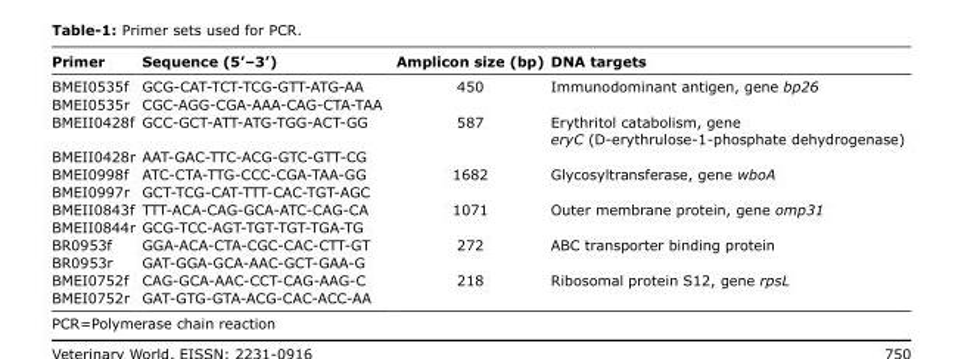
<table><thead><tr><td>Primer</td><td>Sequence (5’–3’)</td><td>Amplicon size (bp)</td><td>DNA targets</td></tr></thead><tbody><tr><td>BMEI0535f</td><td>GCG-CAT-TCT-TCG-GTT-ATG-AA</td><td>450</td><td>Immunodominant antigen, gene bp26</td></tr><tr><td>BMEI0535r</td><td>CGC-AGG-CGA-AAA-CAG-CTA-TAA</td><td></td><td></td></tr><tr><td>BMEII0428f</td><td>GCC-GCT-ATT-ATG-TGG-ACT-GG</td><td>587</td><td>Erythritol catabolism, gene eryC (D-erythrulose-1-phosphate dehydrogenase)</td></tr><tr><td>BMEII0428r</td><td>AAT-GAC-TTC-ACG-GTC-GTT-CG</td><td></td><td></td></tr><tr><td>BMEI0998f</td><td>ATC-CTA-TTG-CCC-CGA-TAA-GG</td><td>1682</td><td>Glycosyltransferase, gene wboA</td></tr><tr><td>BMEI0997r</td><td>GCT-TCG-CAT-TTT-CAC-TGT-AGC</td><td></td><td></td></tr><tr><td>BMEII0843f</td><td>TTT-ACA-CAG-GCA-ATC-CAG-CA</td><td>1071</td><td>Outer membrane protein, gene omp31</td></tr><tr><td>BMEII0844r</td><td>GCG-TCC-AGT-TGT-TGT-TGA-TG</td><td></td><td></td></tr><tr><td>BR0953f</td><td>GGA-ACA-CTA-CGC-CAC-CTT-GT</td><td>272</td><td>ABC transporter binding protein</td></tr><tr><td>BR0953r</td><td>GAT-GGA-GCA-AAC-GCT-GAA-G</td><td></td><td></td></tr><tr><td>BMEI0752f</td><td>CAG-GCA-AAC-CCT-CAG-AAG-C</td><td>218</td><td>Ribosomal protein S12, gene rpsL</td></tr><tr><td>BMEI0752r</td><td>GAT-GTG-GTA-ACG-CAC-ACC-AA</td><td></td><td></td></tr></tbody></table>